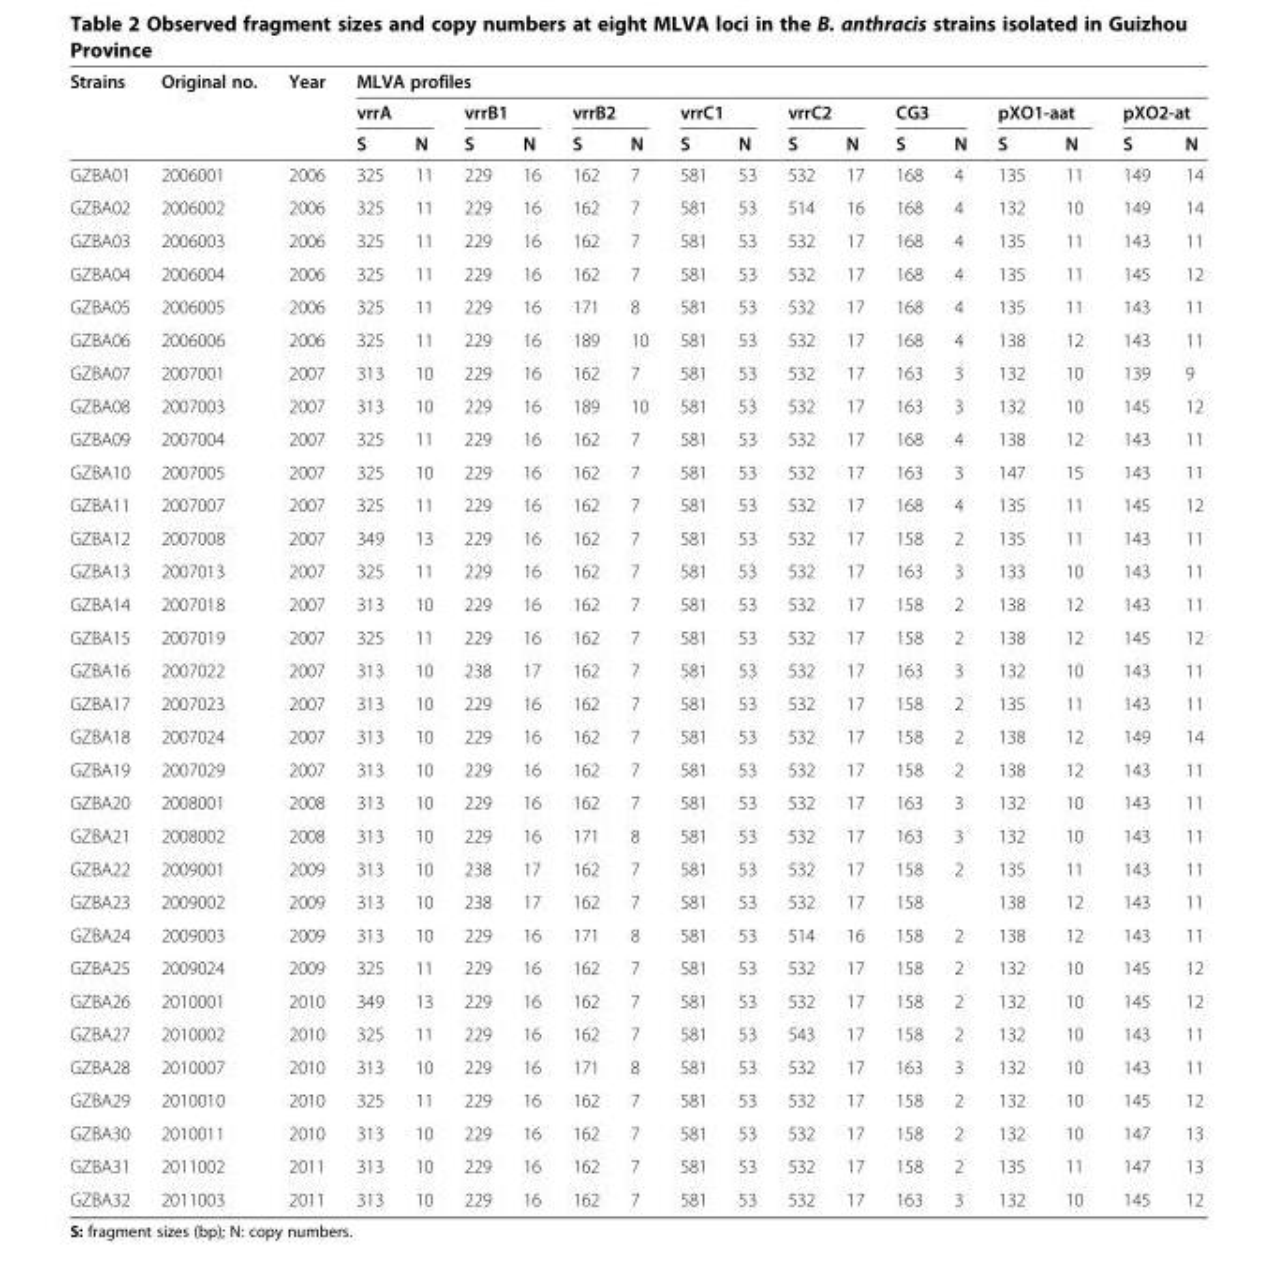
<table><thead><tr><td rowspan="3">Strains</td><td rowspan="3">Original no.</td><td rowspan="3">Year</td><td colspan="16">MLVA profiles</td></tr><tr><td colspan="2">vrrA</td><td colspan="2">vrrB1</td><td colspan="2">vrrB2</td><td colspan="2">vrrC1</td><td colspan="2">vrrC2</td><td colspan="2">CG3</td><td colspan="2">pXO1-aat</td><td colspan="2">pXO2-at</td></tr><tr><td>S</td><td>N</td><td>S</td><td>N</td><td>S</td><td>N</td><td>S</td><td>N</td><td>S</td><td>N</td><td>S</td><td>N</td><td>S</td><td>N</td><td>S</td><td>N</td></tr></thead><tbody><tr><td>GZBA01</td><td>2006001</td><td>2006</td><td>325</td><td>11</td><td>229</td><td>16</td><td>162</td><td>7</td><td>581</td><td>53</td><td>532</td><td>17</td><td>168</td><td>4</td><td>135</td><td>11</td><td>149</td><td>14</td></tr><tr><td>GZBA02</td><td>2006002</td><td>2006</td><td>325</td><td>11</td><td>229</td><td>16</td><td>162</td><td>7</td><td>581</td><td>53</td><td>514</td><td>16</td><td>168</td><td>4</td><td>132</td><td>10</td><td>149</td><td>14</td></tr><tr><td>GZBA03</td><td>2006003</td><td>2006</td><td>325</td><td>11</td><td>229</td><td>16</td><td>162</td><td>7</td><td>581</td><td>53</td><td>532</td><td>17</td><td>168</td><td>4</td><td>135</td><td>11</td><td>143</td><td>11</td></tr><tr><td>GZBA04</td><td>2006004</td><td>2006</td><td>325</td><td>11</td><td>229</td><td>16</td><td>162</td><td>7</td><td>581</td><td>53</td><td>532</td><td>17</td><td>168</td><td>4</td><td>135</td><td>11</td><td>145</td><td>12</td></tr><tr><td>GZBA05</td><td>2006005</td><td>2006</td><td>325</td><td>11</td><td>229</td><td>16</td><td>171</td><td>8</td><td>581</td><td>53</td><td>532</td><td>17</td><td>168</td><td>4</td><td>135</td><td>11</td><td>143</td><td>11</td></tr><tr><td>GZBA06</td><td>2006006</td><td>2006</td><td>325</td><td>11</td><td>229</td><td>16</td><td>189</td><td>10</td><td>581</td><td>53</td><td>532</td><td>17</td><td>168</td><td>4</td><td>138</td><td>12</td><td>143</td><td>11</td></tr><tr><td>GZBA07</td><td>2007001</td><td>2007</td><td>313</td><td>10</td><td>229</td><td>16</td><td>162</td><td>7</td><td>581</td><td>53</td><td>532</td><td>17</td><td>163</td><td>3</td><td>132</td><td>10</td><td>139</td><td>9</td></tr><tr><td>GZBA08</td><td>2007003</td><td>2007</td><td>313</td><td>10</td><td>229</td><td>16</td><td>189</td><td>10</td><td>581</td><td>53</td><td>532</td><td>17</td><td>163</td><td>3</td><td>132</td><td>10</td><td>145</td><td>12</td></tr><tr><td>GZBA09</td><td>2007004</td><td>2007</td><td>325</td><td>11</td><td>229</td><td>16</td><td>162</td><td>7</td><td>581</td><td>53</td><td>532</td><td>17</td><td>168</td><td>4</td><td>138</td><td>12</td><td>143</td><td>11</td></tr><tr><td>GZBA10</td><td>2007005</td><td>2007</td><td>325</td><td>10</td><td>229</td><td>16</td><td>162</td><td>7</td><td>581</td><td>53</td><td>532</td><td>17</td><td>163</td><td>3</td><td>147</td><td>15</td><td>143</td><td>11</td></tr><tr><td>GZBA11</td><td>2007007</td><td>2007</td><td>325</td><td>11</td><td>229</td><td>16</td><td>162</td><td>7</td><td>581</td><td>53</td><td>532</td><td>17</td><td>168</td><td>4</td><td>135</td><td>11</td><td>145</td><td>12</td></tr><tr><td>GZBA12</td><td>2007008</td><td>2007</td><td>349</td><td>13</td><td>229</td><td>16</td><td>162</td><td>7</td><td>581</td><td>53</td><td>532</td><td>17</td><td>158</td><td>2</td><td>135</td><td>11</td><td>143</td><td>11</td></tr><tr><td>GZBA13</td><td>2007013</td><td>2007</td><td>325</td><td>11</td><td>229</td><td>16</td><td>162</td><td>7</td><td>581</td><td>53</td><td>532</td><td>17</td><td>163</td><td>3</td><td>133</td><td>10</td><td>143</td><td>11</td></tr><tr><td>GZBA14</td><td>2007018</td><td>2007</td><td>313</td><td>10</td><td>229</td><td>16</td><td>162</td><td>7</td><td>581</td><td>53</td><td>532</td><td>17</td><td>158</td><td>2</td><td>138</td><td>12</td><td>143</td><td>11</td></tr><tr><td>GZBA15</td><td>2007019</td><td>2007</td><td>325</td><td>11</td><td>229</td><td>16</td><td>162</td><td>7</td><td>581</td><td>53</td><td>532</td><td>17</td><td>158</td><td>2</td><td>138</td><td>12</td><td>145</td><td>12</td></tr><tr><td>GZBA16</td><td>2007022</td><td>2007</td><td>313</td><td>10</td><td>238</td><td>17</td><td>162</td><td>7</td><td>581</td><td>53</td><td>532</td><td>17</td><td>163</td><td>3</td><td>132</td><td>10</td><td>143</td><td>11</td></tr><tr><td>GZBA17</td><td>2007023</td><td>2007</td><td>313</td><td>10</td><td>229</td><td>16</td><td>162</td><td>7</td><td>581</td><td>53</td><td>532</td><td>17</td><td>158</td><td>2</td><td>135</td><td>11</td><td>143</td><td>11</td></tr><tr><td>GZBA18</td><td>2007024</td><td>2007</td><td>313</td><td>10</td><td>229</td><td>16</td><td>162</td><td>7</td><td>581</td><td>53</td><td>532</td><td>17</td><td>158</td><td>2</td><td>138</td><td>12</td><td>149</td><td>14</td></tr><tr><td>GZBA19</td><td>2007029</td><td>2007</td><td>313</td><td>10</td><td>229</td><td>16</td><td>162</td><td>7</td><td>581</td><td>53</td><td>532</td><td>17</td><td>158</td><td>2</td><td>138</td><td>12</td><td>143</td><td>11</td></tr><tr><td>GZBA20</td><td>2008001</td><td>2008</td><td>313</td><td>10</td><td>229</td><td>16</td><td>162</td><td>7</td><td>581</td><td>53</td><td>532</td><td>17</td><td>163</td><td>3</td><td>132</td><td>10</td><td>143</td><td>11</td></tr><tr><td>GZBA21</td><td>2008002</td><td>2008</td><td>313</td><td>10</td><td>229</td><td>16</td><td>171</td><td>8</td><td>581</td><td>53</td><td>532</td><td>17</td><td>163</td><td>3</td><td>132</td><td>10</td><td>143</td><td>11</td></tr><tr><td>GZBA22</td><td>2009001</td><td>2009</td><td>313</td><td>10</td><td>238</td><td>17</td><td>162</td><td>7</td><td>581</td><td>53</td><td>532</td><td>17</td><td>158</td><td>2</td><td>135</td><td>11</td><td>143</td><td>11</td></tr><tr><td>GZBA23</td><td>2009002</td><td>2009</td><td>313</td><td>10</td><td>238</td><td>17</td><td>162</td><td>7</td><td>581</td><td>53</td><td>532</td><td>17</td><td>158</td><td></td><td>138</td><td>12</td><td>143</td><td>11</td></tr><tr><td>GZBA24</td><td>2009003</td><td>2009</td><td>313</td><td>10</td><td>229</td><td>16</td><td>171</td><td>8</td><td>581</td><td>53</td><td>514</td><td>16</td><td>158</td><td>2</td><td>138</td><td>12</td><td>143</td><td>11</td></tr><tr><td>GZBA25</td><td>2009024</td><td>2009</td><td>325</td><td>11</td><td>229</td><td>16</td><td>162</td><td>7</td><td>581</td><td>53</td><td>532</td><td>17</td><td>158</td><td>2</td><td>132</td><td>10</td><td>145</td><td>12</td></tr><tr><td>GZBA26</td><td>2010001</td><td>2010</td><td>349</td><td>13</td><td>229</td><td>16</td><td>162</td><td>7</td><td>581</td><td>53</td><td>532</td><td>17</td><td>158</td><td>2</td><td>132</td><td>10</td><td>145</td><td>12</td></tr><tr><td>GZBA27</td><td>2010002</td><td>2010</td><td>325</td><td>11</td><td>229</td><td>16</td><td>162</td><td>7</td><td>581</td><td>53</td><td>543</td><td>17</td><td>158</td><td>2</td><td>132</td><td>10</td><td>143</td><td>11</td></tr><tr><td>GZBA28</td><td>2010007</td><td>2010</td><td>313</td><td>10</td><td>229</td><td>16</td><td>171</td><td>8</td><td>581</td><td>53</td><td>532</td><td>17</td><td>163</td><td>3</td><td>132</td><td>10</td><td>143</td><td>11</td></tr><tr><td>GZBA29</td><td>2010010</td><td>2010</td><td>325</td><td>11</td><td>229</td><td>16</td><td>162</td><td>7</td><td>581</td><td>53</td><td>532</td><td>17</td><td>158</td><td>2</td><td>132</td><td>10</td><td>145</td><td>12</td></tr><tr><td>GZBA30</td><td>2010011</td><td>2010</td><td>313</td><td>10</td><td>229</td><td>16</td><td>162</td><td>7</td><td>581</td><td>53</td><td>532</td><td>17</td><td>158</td><td>2</td><td>132</td><td>10</td><td>147</td><td>13</td></tr><tr><td>GZBA31</td><td>2011002</td><td>2011</td><td>313</td><td>10</td><td>229</td><td>16</td><td>162</td><td>7</td><td>581</td><td>53</td><td>532</td><td>17</td><td>158</td><td>2</td><td>135</td><td>11</td><td>147</td><td>13</td></tr><tr><td>GZBA32</td><td>2011003</td><td>2011</td><td>313</td><td>10</td><td>229</td><td>16</td><td>162</td><td>7</td><td>581</td><td>53</td><td>532</td><td>17</td><td>163</td><td>3</td><td>132</td><td>10</td><td>145</td><td>12</td></tr></tbody></table>